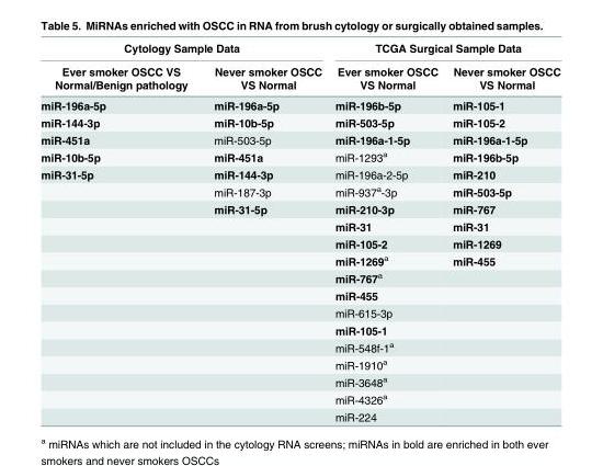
<table><thead><tr><td colspan="2">Cytology Sample Data</td><td colspan="2">TCGA Surgical Sample Data</td></tr><tr><td>Ever smoker OSCC VS Normal/Benign pathology</td><td>Never smoker OSCC VS Normal</td><td>Ever smoker OSCC VS Normal</td><td>Never smoker OSCC VS Normal</td></tr></thead><tbody><tr><td>miR-196a-5p</td><td>miR-196a-5p</td><td>miR-196b-5p</td><td>miR-105-1</td></tr><tr><td>miR-144-3p</td><td>miR-10b-5p</td><td>miR-503-5p</td><td>miR-105-2</td></tr><tr><td>miR-451a</td><td>miR-503-5p</td><td>miR-196a-1-5p</td><td>miR-196a-1-5p</td></tr><tr><td>miR-10b-5p</td><td>miR-451a</td><td>miR-1293<sup>a</sup></td><td>miR-196b-5p</td></tr><tr><td rowspan="15">miR-31-5p</td><td>miR-144-3p</td><td>miR-196a-2-5p</td><td>miR-210</td></tr><tr><td>miR-187-3p</td><td>miR-937<sup>a</sup>-3p</td><td>miR-503-5p</td></tr><tr><td>miR-31-5p</td><td>miR-210-3p</td><td>miR-767</td></tr><tr><td></td><td>miR-31</td><td>miR-31</td></tr><tr><td></td><td>miR-105-2</td><td>miR-1269</td></tr><tr><td></td><td>miR-1269<sup>a</sup></td><td>miR-455</td></tr><tr><td></td><td>miR-767<sup>a</sup></td><td></td></tr><tr><td></td><td>miR-455</td><td></td></tr><tr><td></td><td>miR-615-3p</td><td></td></tr><tr><td></td><td>miR-105-1</td><td></td></tr><tr><td></td><td>miR-548f-1<sup>a</sup></td><td></td></tr><tr><td></td><td>miR-1910<sup>a</sup></td><td></td></tr><tr><td></td><td>miR-3648<sup>a</sup></td><td></td></tr><tr><td></td><td>miR-4326<sup>a</sup></td><td></td></tr><tr><td></td><td>miR-224</td><td></td></tr></tbody></table>